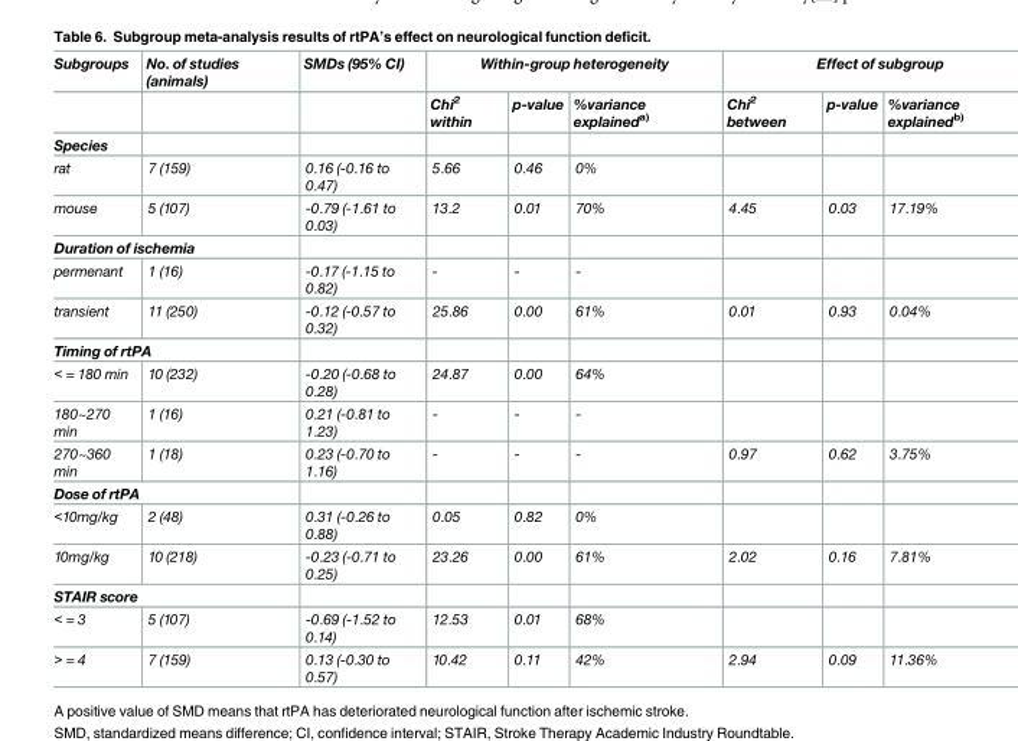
<table><thead><tr><td rowspan="2">Subgroups</td><td rowspan="2">No. of studies (animals)</td><td rowspan="2">SMDs (95% CI)</td><td colspan="3">Within-group heterogeneity</td><td colspan="3">Effect of subgroup</td></tr><tr><td>Chi<sup>2</sup> within</td><td>p-value</td><td>%variance explained<sup>a)</sup></td><td>Chi<sup>2</sup> between</td><td>p-value</td><td>%variance explained<sup>b)</sup></td></tr></thead><tbody><tr><td colspan="9">Species</td></tr><tr><td>rat</td><td>7 (159)</td><td>0.16 (-0.16 to 0.47)</td><td>5.66</td><td>0.46</td><td>0%</td><td></td><td></td><td></td></tr><tr><td>mouse</td><td>5 (107)</td><td>-0.79 (-1.61 to 0.03)</td><td>13.2</td><td>0.01</td><td>70%</td><td>4.45</td><td>0.03</td><td>17.19%</td></tr><tr><td colspan="9">Duration of ischemia</td></tr><tr><td>permenant</td><td>1 (16)</td><td>-0.17 (-1.15 to 0.82)</td><td>-</td><td>-</td><td>-</td><td></td><td></td><td></td></tr><tr><td>transient</td><td>11 (250)</td><td>-0.12 (-0.57 to 0.32)</td><td>25.86</td><td>0.00</td><td>61%</td><td>0.01</td><td>0.93</td><td>0.04%</td></tr><tr><td colspan="9">Timing of rtPA</td></tr><tr><td>&lt; = 180 min</td><td>10 (232)</td><td>-0.20 (-0.68 to 0.28)</td><td>24.87</td><td>0.00</td><td>64%</td><td></td><td></td><td></td></tr><tr><td>180~270 min</td><td>1 (16)</td><td>0.21 (-0.81 to 1.23)</td><td>-</td><td>-</td><td>-</td><td></td><td></td><td></td></tr><tr><td>270~360 min</td><td>1 (18)</td><td>0.23 (-0.70 to 1.16)</td><td>-</td><td>-</td><td>-</td><td>0.97</td><td>0.62</td><td>3.75%</td></tr><tr><td colspan="9">Dose of rtPA</td></tr><tr><td>&lt;10mg/kg</td><td>2 (48)</td><td>0.31 (-0.26 to 0.88)</td><td>0.05</td><td>0.82</td><td>0%</td><td></td><td></td><td></td></tr><tr><td>10mg/kg</td><td>10 (218)</td><td>-0.23 (-0.71 to 0.25)</td><td>23.26</td><td>0.00</td><td>61%</td><td>2.02</td><td>0.16</td><td>7.81%</td></tr><tr><td colspan="9">STAIR score</td></tr><tr><td>&lt; = 3</td><td>5 (107)</td><td>-0.69 (-1.52 to 0.14)</td><td>12.53</td><td>0.01</td><td>68%</td><td></td><td></td><td></td></tr><tr><td>&gt; = 4</td><td>7 (159)</td><td>0.13 (-0.30 to 0.57)</td><td>10.42</td><td>0.11</td><td>42%</td><td>2.94</td><td>0.09</td><td>11.36%</td></tr></tbody></table>